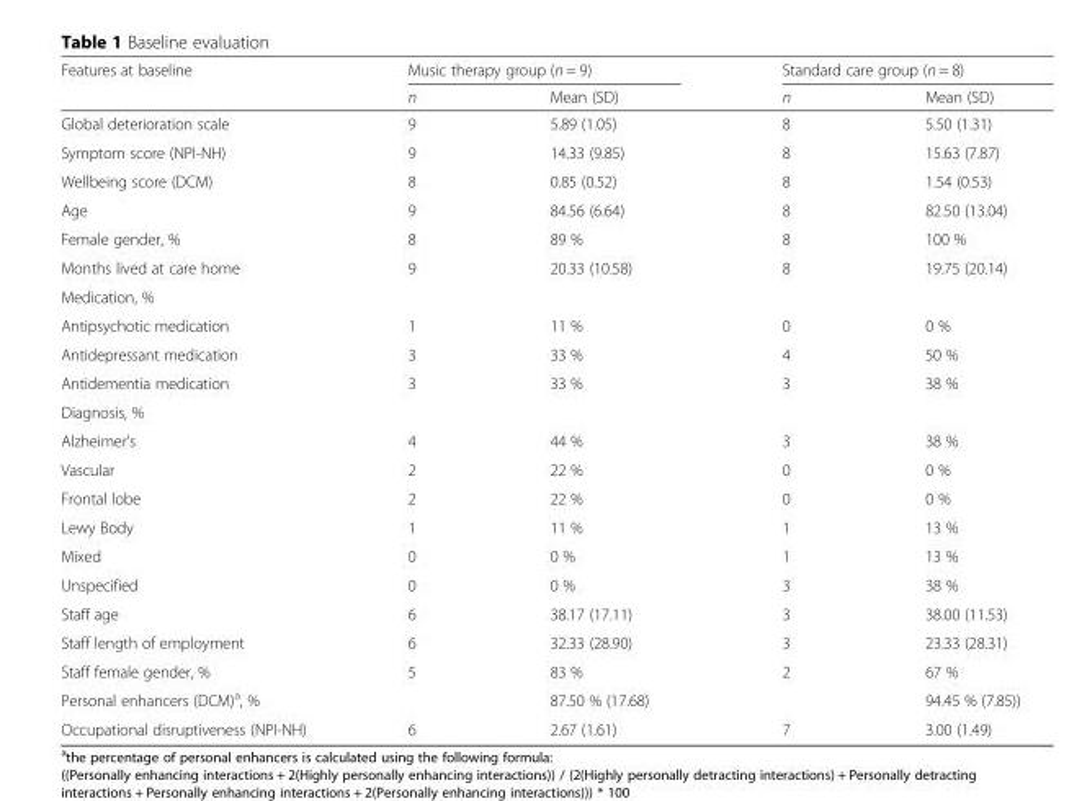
<table><thead><tr><td rowspan="2">Features at baseline</td><td colspan="2">Music therapy group (n = 9)</td><td colspan="2">Standard care group (n = 8)</td></tr><tr><td>n</td><td>Mean (SD)</td><td>n</td><td>Mean (SD)</td></tr></thead><tbody><tr><td>Global deterioration scale</td><td>9</td><td>5.89 (1.05)</td><td>8</td><td>5.50 (1.31)</td></tr><tr><td>Symptom score (NPI-NH)</td><td>9</td><td>14.33 (9.85)</td><td>8</td><td>15.63 (7.87)</td></tr><tr><td>Wellbeing score (DCM)</td><td>8</td><td>0.85 (0.52)</td><td>8</td><td>1.54 (0.53)</td></tr><tr><td>Age</td><td>9</td><td>84.56 (6.64)</td><td>8</td><td>82.50 (13.04)</td></tr><tr><td>Female gender, %</td><td>8</td><td>89 %</td><td>8</td><td>100 %</td></tr><tr><td>Months lived at care home</td><td>9</td><td>20.33 (10.58)</td><td>8</td><td>19.75 (20.14)</td></tr><tr><td colspan="5">Medication, %</td></tr><tr><td>Antipsychotic medication</td><td>1</td><td>11 %</td><td>0</td><td>0 %</td></tr><tr><td>Antidepressant medication</td><td>3</td><td>33 %</td><td>4</td><td>50 %</td></tr><tr><td>Antidementia medication</td><td>3</td><td>33 %</td><td>3</td><td>38 %</td></tr><tr><td colspan="5">Diagnosis, %</td></tr><tr><td>Alzheimer’s</td><td>4</td><td>44 %</td><td>3</td><td>38 %</td></tr><tr><td>Vascular</td><td>2</td><td>22 %</td><td>0</td><td>0 %</td></tr><tr><td>Frontal lobe</td><td>2</td><td>22 %</td><td>0</td><td>0 %</td></tr><tr><td>Lewy Body</td><td>1</td><td>11 %</td><td>1</td><td>13 %</td></tr><tr><td>Mixed</td><td>0</td><td>0 %</td><td>1</td><td>13 %</td></tr><tr><td>Unspecified</td><td>0</td><td>0 %</td><td>3</td><td>38 %</td></tr><tr><td>Staff age</td><td>6</td><td>38.17 (17.11)</td><td>3</td><td>38.00 (11.53)</td></tr><tr><td>Staff length of employment</td><td>6</td><td>32.33 (28.90)</td><td>3</td><td>23.33 (28.31)</td></tr><tr><td>Staff female gender, %</td><td>5</td><td>83 %</td><td>2</td><td>67 %</td></tr><tr><td>Personal enhancers (DCM)<sup>a</sup>, %</td><td></td><td>87.50 % (17.68)</td><td></td><td>94.45 % (7.85))</td></tr><tr><td>Occupational disruptiveness (NPI-NH)</td><td>6</td><td>2.67 (1.61)</td><td>7</td><td>3.00 (1.49)</td></tr></tbody></table>